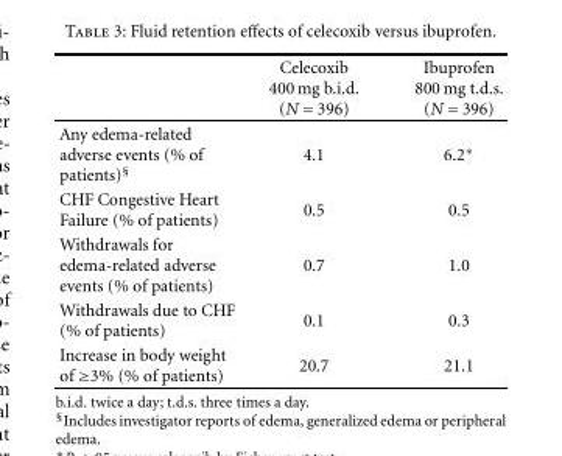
<table><thead><tr><td></td><td>Celecoxib 400 mg b.i.d. (N = 396)</td><td>Ibuprofen 800 mg t.d.s. (N = 396)</td></tr></thead><tbody><tr><td>Any edema-related adverse events (% of patients)<sup>§</sup></td><td>4.1</td><td>6.2∗</td></tr><tr><td>CHF Congestive Heart Failure (% of patients)</td><td>0.5</td><td>0.5</td></tr><tr><td>Withdrawals for edema-related adverse events (% of patients)</td><td>0.7</td><td>1.0</td></tr><tr><td>Withdrawals due to CHF (% of patients)</td><td>0.1</td><td>0.3</td></tr><tr><td>Increase in body weight of ≥3% (% of patients)</td><td>20.7</td><td>21.1</td></tr></tbody></table>